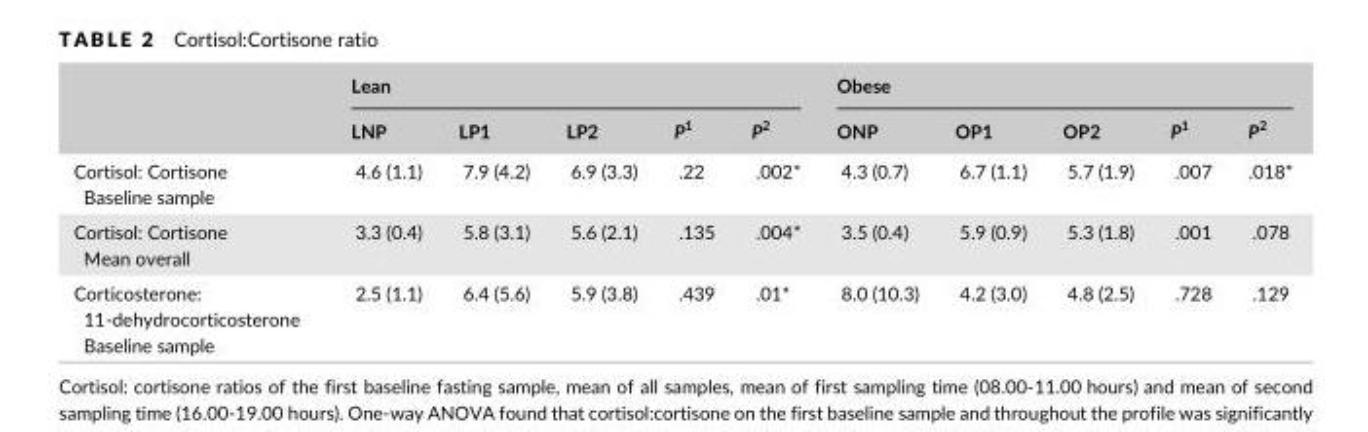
<table><thead><tr><td rowspan="2"></td><td colspan="5">Lean</td><td colspan="5">Obese</td></tr><tr><td>LNP</td><td>LP1</td><td>LP2</td><td>P<sup>1</sup></td><td>P<sup>2</sup></td><td>ONP</td><td>OP1</td><td>OP2</td><td>P<sup>1</sup></td><td>P<sup>2</sup></td></tr></thead><tbody><tr><td>Cortisol: Cortisone Baseline sample</td><td>4.6 (1.1)</td><td>7.9 (4.2)</td><td>6.9 (3.3)</td><td>.22</td><td>.002*</td><td>4.3 (0.7)</td><td>6.7 (1.1)</td><td>5.7 (1.9)</td><td>.007</td><td>.018*</td></tr><tr><td>Cortisol: Cortisone Mean overall</td><td>3.3 (0.4)</td><td>5.8 (3.1)</td><td>5.6 (2.1)</td><td>.135</td><td>.004*</td><td>3.5 (0.4)</td><td>5.9 (0.9)</td><td>5.3 (1.8)</td><td>.001</td><td>.078</td></tr><tr><td>Corticosterone: 11- dehydrocorticosterone Baseline sample</td><td>2.5 (1.1)</td><td>6.4 (5.6)</td><td>5.9 (3.8)</td><td>.439</td><td>.01*</td><td>8.0 (10.3)</td><td>4.2 (3.0)</td><td>4.8 (2.5)</td><td>.728</td><td>.129</td></tr></tbody></table>